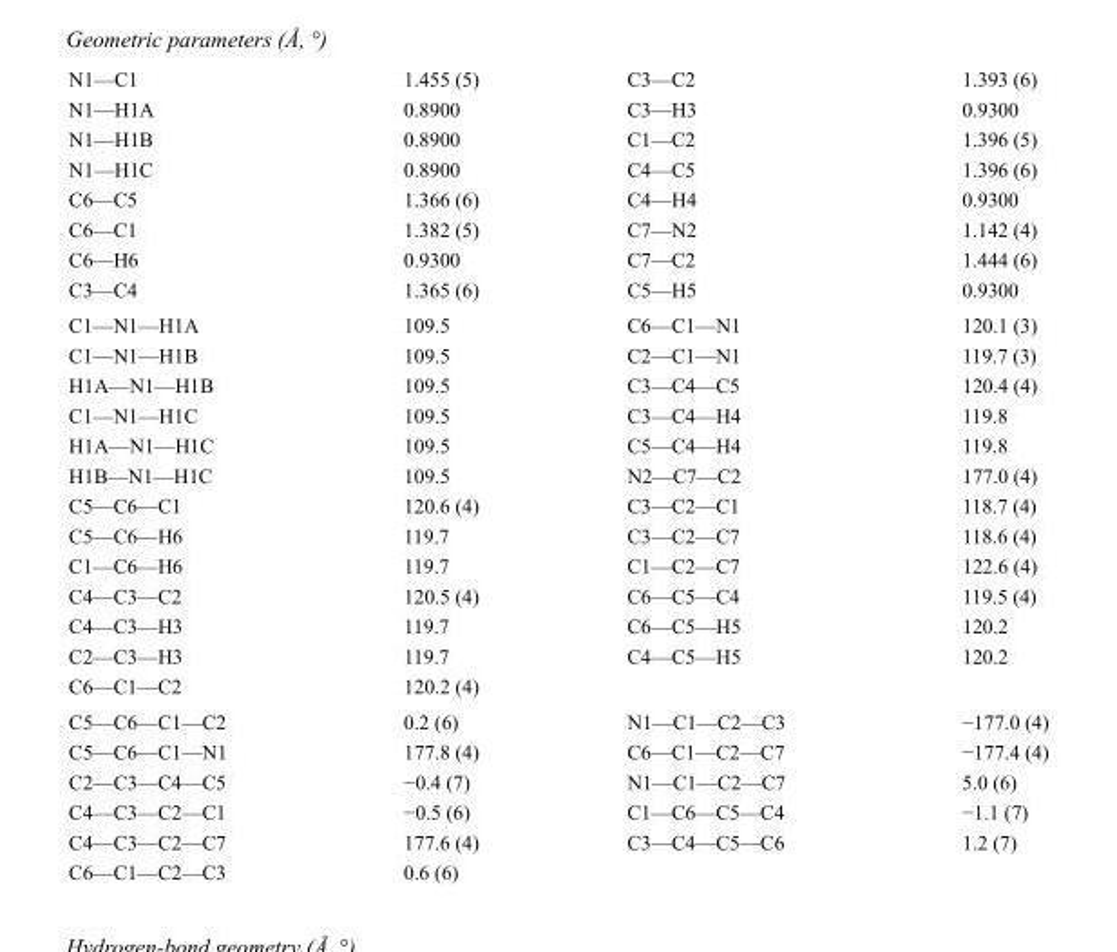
<table><tbody><tr><td>N1—C1</td><td>1.455 (5)</td><td>C3—C2</td><td>1.393 (6)</td></tr><tr><td>N1—H1A</td><td>0.8900</td><td>C3—H3</td><td>0.9300</td></tr><tr><td>N1—H1B</td><td>0.8900</td><td>C1—C2</td><td>1.396 (5)</td></tr><tr><td>N1—H1C</td><td>0.8900</td><td>C4—C5</td><td>1.396 (6)</td></tr><tr><td>C6—C5</td><td>1.366 (6)</td><td>C4—H4</td><td>0.9300</td></tr><tr><td>C6—C1</td><td>1.382 (5)</td><td>C7—N2</td><td>1.142 (4)</td></tr><tr><td>C6—H6</td><td>0.9300</td><td>C7—C2</td><td>1.444 (6)</td></tr><tr><td>C3—C4</td><td>1.365 (6)</td><td>C5—H5</td><td>0.9300</td></tr><tr><td>C1—N1—H1A</td><td>109.5</td><td>C6—C1—N1</td><td>120.1 (3)</td></tr><tr><td>C1—N1—H1B</td><td>109.5</td><td>C2—C1—N1</td><td>119.7 (3)</td></tr><tr><td>H1A—N1—H1B</td><td>109.5</td><td>C3—C4—C5</td><td>120.4 (4)</td></tr><tr><td>C1—N1—H1C</td><td>109.5</td><td>C3—C4—H4</td><td>119.8</td></tr><tr><td>H1A—N1—H1C</td><td>109.5</td><td>C5—C4—H4</td><td>119.8</td></tr><tr><td>H1B—N1—H1C</td><td>109.5</td><td>N2—C7—C2</td><td>177.0 (4)</td></tr><tr><td>C5—C6—C1</td><td>120.6 (4)</td><td>C3—C2—C1</td><td>118.7 (4)</td></tr><tr><td>C5—C6—H6</td><td>119.7</td><td>C3—C2—C7</td><td>118.6 (4)</td></tr><tr><td>C1—C6—H6</td><td>119.7</td><td>C1—C2—C7</td><td>122.6 (4)</td></tr><tr><td>C4—C3—C2</td><td>120.5 (4)</td><td>C6—C5—C4</td><td>119.5 (4)</td></tr><tr><td>C4—C3—H3</td><td>119.7</td><td>C6—C5—H5</td><td>120.2</td></tr><tr><td>C2—C3—H3</td><td>119.7</td><td>C4—C5—H5</td><td>120.2</td></tr><tr><td>C6—C1—C2</td><td>120.2 (4)</td><td></td><td></td></tr><tr><td>C5—C6—C1—C2</td><td>0.2 (6)</td><td>N1—C1—C2—C3</td><td>−177.0 (4)</td></tr><tr><td>C5—C6—C1—N1</td><td>177.8 (4)</td><td>C6—C1—C2—C7</td><td>−177.4 (4)</td></tr><tr><td>C2—C3—C4—C5</td><td>−0.4 (7)</td><td>N1—C1—C2—C7</td><td>5.0 (6)</td></tr><tr><td>C4—C3—C2—C1</td><td>−0.5 (6)</td><td>C1—C6—C5—C4</td><td>−1.1 (7)</td></tr><tr><td>C4—C3—C2—C7</td><td>177.6 (4)</td><td>C3—C4—C5—C6</td><td>1.2 (7)</td></tr><tr><td>C6—C1—C2—C3</td><td>0.6 (6)</td><td></td><td></td></tr></tbody></table>